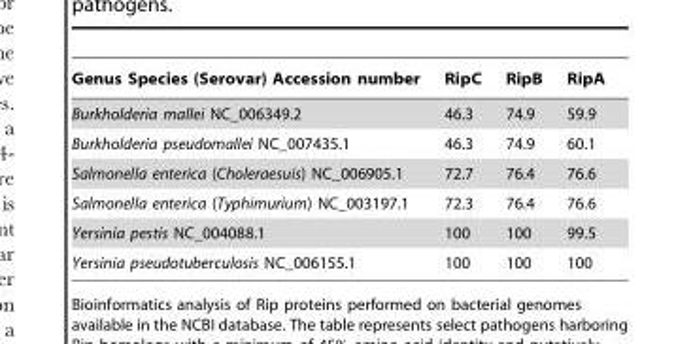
<table><thead><tr><td>Genus Species (Serovar) Accession number</td><td>RipC</td><td>RipB</td><td>RipA</td></tr></thead><tbody><tr><td>Burkholderia mallei NC_006349.2</td><td>46.3</td><td>74.9</td><td>59.9</td></tr><tr><td>Burkholderia pseudomallei NC_007435.1</td><td>46.3</td><td>74.9</td><td>60.1</td></tr><tr><td>Salmonella enterica (Choleraesuis) NC_006905.1</td><td>72.7</td><td>76.4</td><td>76.6</td></tr><tr><td>Salmonella enterica (Typhimurium) NC_003197.1</td><td>72.3</td><td>76.4</td><td>76.6</td></tr><tr><td>Yersinia pestis NC_004088.1</td><td>100</td><td>100</td><td>99.5</td></tr><tr><td>Yersinia pseudotuberculosis NC_006155.1</td><td>100</td><td>100</td><td>100</td></tr></tbody></table>